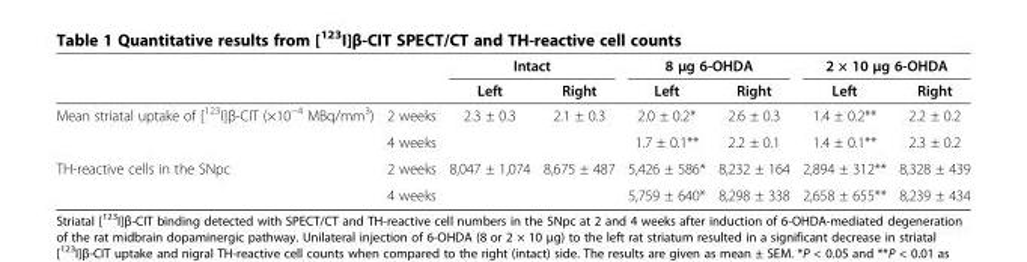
<table><thead><tr><td rowspan="2"></td><td rowspan="2"></td><td colspan="2">Intact</td><td colspan="2">8 μg 6-OHDA</td><td colspan="2">2 × 10 μg 6-OHDA</td></tr><tr><td>Left</td><td>Right</td><td>Left</td><td>Right</td><td>Left</td><td>Right</td></tr></thead><tbody><tr><td rowspan="2">Mean striatal uptake of [<sup>123</sup>I]β-CIT (×10<sup>−4</sup> MBq/mm<sup>3</sup>)</td><td>2 weeks</td><td rowspan="2">2.3 ± 0.3</td><td rowspan="2">2.1 ± 0.3</td><td>2.0 ± 0.2*</td><td>2.6 ± 0.3</td><td>1.4 ± 0.2**</td><td>2.2 ± 0.2</td></tr><tr><td>4 weeks</td><td>1.7 ± 0.1**</td><td>2.2 ± 0.1</td><td>1.4 ± 0.1**</td><td>2.3 ± 0.2</td></tr><tr><td rowspan="2">TH-reactive cells in the SNpc</td><td>2 weeks</td><td>8,047 ± 1,074</td><td>8,675 ± 487</td><td>5,426 ± 586*</td><td>8,232 ± 164</td><td>2,894 ± 312**</td><td>8,328 ± 439</td></tr><tr><td>4 weeks</td><td></td><td></td><td>5,759 ± 640*</td><td>8,298 ± 338</td><td>2,658 ± 655**</td><td>8,239 ± 434</td></tr></tbody></table>